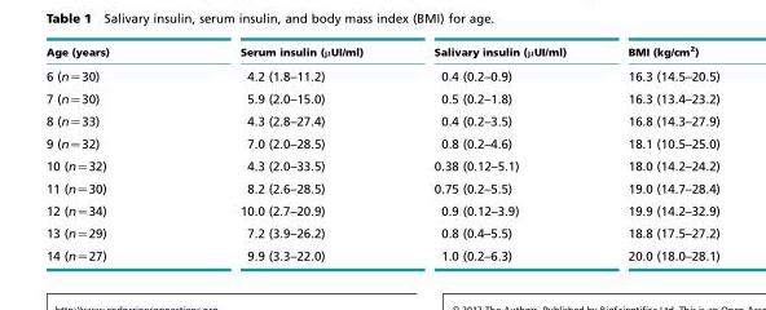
<table><thead><tr><td>Age (years)</td><td>Serum insulin (μUI/ml)</td><td>Salivary insulin (μUI/ml)</td><td>BMI (kg/cm<sup>2</sup>)</td></tr></thead><tbody><tr><td>6 (n=30)</td><td>4.2 (1.8–11.2)</td><td>0.4 (0.2–0.9)</td><td>16.3 (14.5–20.5)</td></tr><tr><td>7 (n=30)</td><td>5.9 (2.0–15.0)</td><td>0.5 (0.2–1.8)</td><td>16.3 (13.4–23.2)</td></tr><tr><td>8 (n=33)</td><td>4.3 (2.8–27.4)</td><td>0.4 (0.2–3.5)</td><td>16.8 (14.3–27.9)</td></tr><tr><td>9 (n=32)</td><td>7.0 (2.0–28.5)</td><td>0.8 (0.2–4.6)</td><td>18.1 (10.5–25.0)</td></tr><tr><td>10 (n=32)</td><td>4.3 (2.0–33.5)</td><td>0.38 (0.12–5.1)</td><td>18.0 (14.2–24.2)</td></tr><tr><td>11 (n=30)</td><td>8.2 (2.6–28.5)</td><td>0.75 (0.2–5.5)</td><td>19.0 (14.7–28.4)</td></tr><tr><td>12 (n=34)</td><td>10.0 (2.7–20.9)</td><td>0.9 (0.12–3.9)</td><td>19.9 (14.2–32.9)</td></tr><tr><td>13 (n=29)</td><td>7.2 (3.9–26.2)</td><td>0.8 (0.4–5.5)</td><td>18.8 (17.5–27.2)</td></tr><tr><td>14 (n=27)</td><td>9.9 (3.3–22.0)</td><td>1.0 (0.2–6.3)</td><td>20.0 (18.0–28.1)</td></tr></tbody></table>